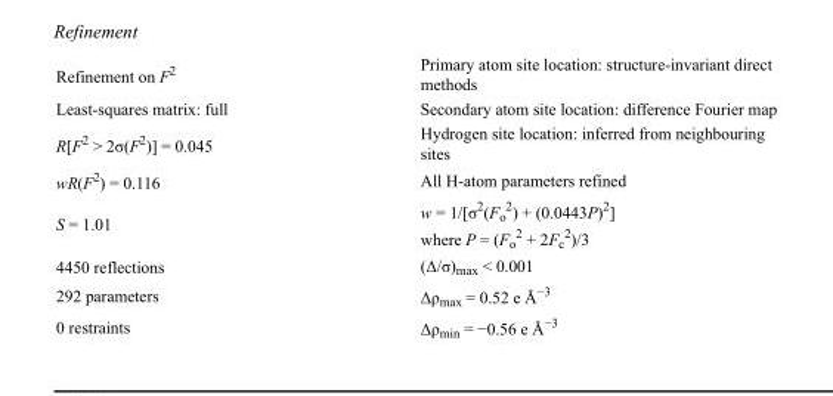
<table><tbody><tr><td>Refinement on F<sup>2</sup></td><td>Primary atom site location: structure-invariant direct methods</td></tr><tr><td>Least-squares matrix: full</td><td>Secondary atom site location: difference Fourier map</td></tr><tr><td>R[F<sup>2</sup> &gt; 2σ(F<sup>2</sup>)] = 0.045</td><td>Hydrogen site location: inferred from neighbouring sites</td></tr><tr><td>wR(F<sup>2</sup>) = 0.116</td><td>All H-atom parameters refined</td></tr><tr><td>S = 1.01</td><td>w = 1/[σ<sup>2</sup>(F<sub>o</sub> <sup>2</sup>) + (0.0443P)<sup>2</sup>] where P = (F<sub>o</sub> <sup>2</sup> + 2F<sub>c</sub> <sup>2</sup>)/3</td></tr><tr><td>4450 reflections</td><td>(Δ/σ)<sub>max</sub> &lt; 0.001</td></tr><tr><td>292 parameters</td><td>Δρ<sub>max</sub> = 0.52 e Å<sup>−3</sup></td></tr><tr><td>0 restraints</td><td>Δρ<sub>min</sub> = −0.56 e Å<sup>−3</sup></td></tr></tbody></table>